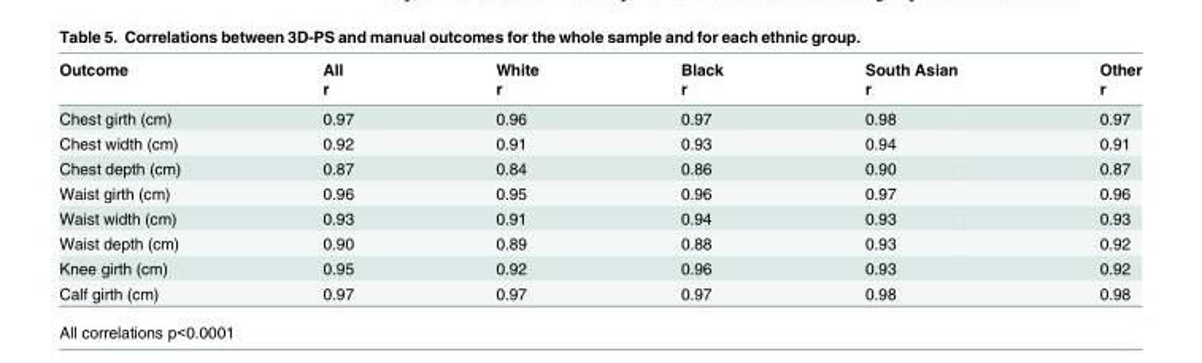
<table><thead><tr><td rowspan="2">Outcome</td><td rowspan="2">All r</td><td rowspan="2">White r</td><td rowspan="2">Black r</td><td rowspan="2">South Asian r</td><td rowspan="2">Other r</td></tr><tr></tr></thead><tbody><tr><td>Chest girth (cm)</td><td>0.97</td><td>0.96</td><td>0.97</td><td>0.98</td><td>0.97</td></tr><tr><td>Chest width (cm)</td><td>0.92</td><td>0.91</td><td>0.93</td><td>0.94</td><td>0.91</td></tr><tr><td>Chest depth (cm)</td><td>0.87</td><td>0.84</td><td>0.86</td><td>0.90</td><td>0.87</td></tr><tr><td>Waist girth (cm)</td><td>0.96</td><td>0.95</td><td>0.96</td><td>0.97</td><td>0.96</td></tr><tr><td>Waist width (cm)</td><td>0.93</td><td>0.91</td><td>0.94</td><td>0.93</td><td>0.93</td></tr><tr><td>Waist depth (cm)</td><td>0.90</td><td>0.89</td><td>0.88</td><td>0.93</td><td>0.92</td></tr><tr><td>Knee girth (cm)</td><td>0.95</td><td>0.92</td><td>0.96</td><td>0.93</td><td>0.92</td></tr><tr><td>Calf girth (cm)</td><td>0.97</td><td>0.97</td><td>0.97</td><td>0.98</td><td>0.98</td></tr></tbody></table>